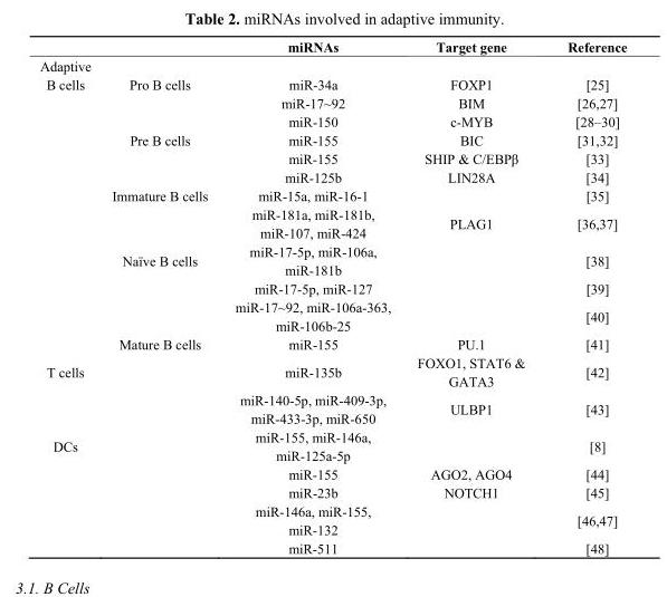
<table><thead><tr><td></td><td></td><td>miRNAs</td><td>Target gene</td><td>Reference</td></tr></thead><tbody><tr><td colspan="5">Adaptive</td></tr><tr><td rowspan="12">B cells</td><td>Pro B cells</td><td>miR-34a</td><td>FOXP1</td><td>[25]</td></tr><tr><td></td><td>miR-17~92</td><td>BIM</td><td>[26,27]</td></tr><tr><td></td><td>miR-150</td><td>c-MYB</td><td>[28–30]</td></tr><tr><td>Pre B cells</td><td>miR-155</td><td>BIC</td><td>[31,32]</td></tr><tr><td></td><td>miR-155</td><td>SHIP &amp; C/EBPβ</td><td>[33]</td></tr><tr><td></td><td>miR-125b</td><td>LIN28A</td><td>[34]</td></tr><tr><td>Immature B cells</td><td>miR-15a, miR-16-1</td><td></td><td>[35]</td></tr><tr><td></td><td>miR-181a, miR-181b, miR-107, miR-424</td><td>PLAG1</td><td>[36,37]</td></tr><tr><td>Naïve B cells</td><td>miR-17-5p, miR-106a, miR-181b</td><td></td><td>[38]</td></tr><tr><td></td><td>miR-17-5p, miR-127</td><td></td><td>[39]</td></tr><tr><td></td><td>miR-17~92, miR-106a-363, miR-106b-25</td><td></td><td>[40]</td></tr><tr><td>Mature B cells</td><td>miR-155</td><td>PU.1</td><td>[41]</td></tr><tr><td rowspan="2">T cells</td><td></td><td>miR-135b</td><td>FOXO1, STAT6 &amp; GATA3</td><td>[42]</td></tr><tr><td></td><td>miR-140-5p, miR-409-3p, miR-433-3p, miR-650</td><td>ULBP1</td><td>[43]</td></tr><tr><td rowspan="5">DCs</td><td></td><td>miR-155, miR-146a, miR-125a-5p</td><td></td><td>[8]</td></tr><tr><td></td><td>miR-155</td><td>AGO2, AGO4</td><td>[44]</td></tr><tr><td></td><td>miR-23b</td><td>NOTCH1</td><td>[45]</td></tr><tr><td></td><td>miR-146a, miR-155, miR-132</td><td></td><td>[46,47]</td></tr><tr><td></td><td>miR-511</td><td></td><td>[48]</td></tr></tbody></table>